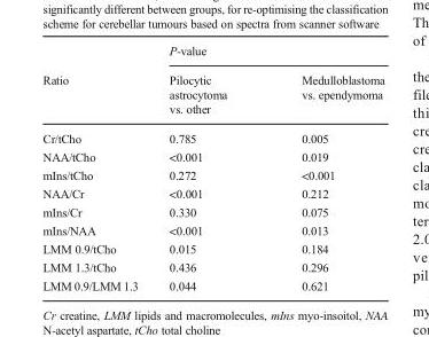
<table><thead><tr><td rowspan="2">Ratio</td><td colspan="2">P-value</td></tr><tr><td>Pilocytic astrocytoma vs. other</td><td>Medulloblastoma vs. ependymoma</td></tr></thead><tbody><tr><td>Cr/tCho</td><td>0.785</td><td>0.005</td></tr><tr><td>NAA/tCho</td><td>&lt;0.001</td><td>0.019</td></tr><tr><td>mIns/tCho</td><td>0.272</td><td>&lt;0.001</td></tr><tr><td>NAA/Cr</td><td>&lt;0.001</td><td>0.212</td></tr><tr><td>mIns/Cr</td><td>0.330</td><td>0.075</td></tr><tr><td>mIns/NAA</td><td>&lt;0.001</td><td>0.013</td></tr><tr><td>LMM 0.9/tCho</td><td>0.015</td><td>0.184</td></tr><tr><td>LMM 1.3/tCho</td><td>0.436</td><td>0.296</td></tr><tr><td>LMM 0.9/LMM 1.3</td><td>0.044</td><td>0.621</td></tr></tbody></table>